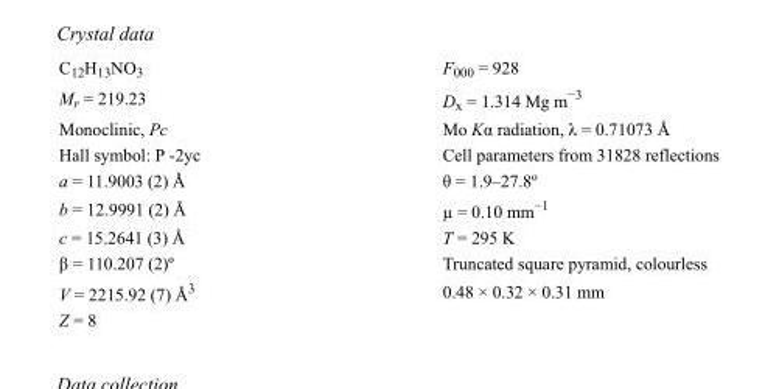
<table><tbody><tr><td>C<sub>12</sub>H<sub>13</sub>NO<sub>3</sub></td><td>F000 = 928</td></tr><tr><td>M<sub>r</sub> = 219.23</td><td>D<sub>x</sub> = 1.314 Mg m<sup>−3</sup></td></tr><tr><td>Monoclinic, Pc</td><td>Mo Kα radiation, λ = 0.71073 Å</td></tr><tr><td>Hall symbol: P -2yc</td><td>Cell parameters from 31828 reflections</td></tr><tr><td>a = 11.9003 (2) Å</td><td>θ = 1.9–27.8º</td></tr><tr><td>b = 12.9991 (2) Å</td><td>µ = 0.10 mm<sup>−1</sup></td></tr><tr><td>c = 15.2641 (3) Å</td><td>T = 295 K</td></tr><tr><td>β = 110.207 (2)º</td><td>Truncated square pyramid, colourless</td></tr><tr><td>V = 2215.92 (7) Å<sup>3</sup></td><td>0.48 × 0.32 × 0.31 mm</td></tr><tr><td>Z = 8</td><td></td></tr></tbody></table>